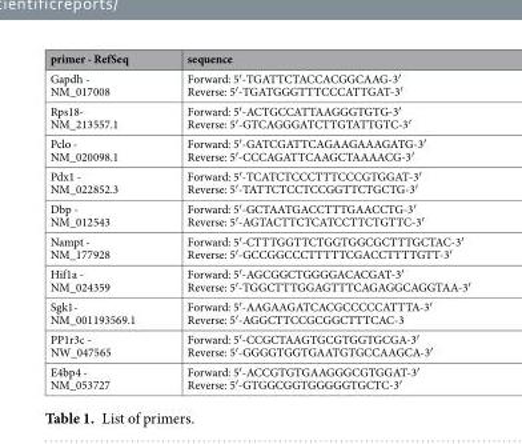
<table><thead><tr><td>primer - RefSeq</td><td>sequence</td></tr></thead><tbody><tr><td>Gapdh - NM_017008</td><td>Forward: 5′-TGATTCTACCACGGCAAG-3′ Reverse: 5′-TGATGGGTTTCCCATTGAT-3′</td></tr><tr><td>Rps18- NM_213557.1</td><td>Forward: 5′-ACTGCCATTAAGGGTGTG-3′ Reverse: 5′-GTCAGGGATCTTGTATTGTC-3′</td></tr><tr><td>Pclo - NM_020098.1</td><td>Forward: 5′-GATCGATTCAGAAGAAAGATG-3′ Reverse: 5′-CCCAGATTCAAGCTAAAACG-3′</td></tr><tr><td>Pdx1 - NM_022852.3</td><td>Forward: 5′-TCATCTCCCTTTCCCGTGGAT-3′ Reverse: 5′-TATTCTCCTCCGGTTCTGCTG-3′</td></tr><tr><td>Dbp - NM_012543</td><td>Forward: 5′-GCTAATGACCTTTGAACCTG-3′ Reverse: 5′-AGTACTTCTCATCCTTCTGTTC-3′</td></tr><tr><td>Nampt - NM_177928</td><td>Forward: 5′-CTTTGGTTCTGGTGGCGCTTTGCTAC-3′ Reverse: 5′-GCCGGCCCTTTTTCGACCTTTTGTT-3′</td></tr><tr><td>Hif1a - NM_024359</td><td>Forward: 5′-AGCGGCTGGGGACACGAT-3′ Reverse: 5′-TGGCTTTGGAGTTTCAGAGGCAGGTAA-3′</td></tr><tr><td>Sgk1- NM_001193569.1</td><td>Forward: 5′-AAGAAGATCACGCCCCCATTTA-3′ Reverse: 5′-AGGCTTCCGCGGCTTTCAC-3</td></tr><tr><td>PP1r3c - NW_047565</td><td>Forward: 5′-CCGCTAAGTGCGTGGTGCGA-3′ Reverse: 5′-GGGGTGGTGAATGTGCCAAGCA-3′</td></tr><tr><td>E4bp4 - NM_053727</td><td>Forward: 5′-ACCGTGTGAAGGGCGTGGAT-3′ Reverse: 5′-GTGGCGGTGGGGGTGCTC-3′</td></tr></tbody></table>